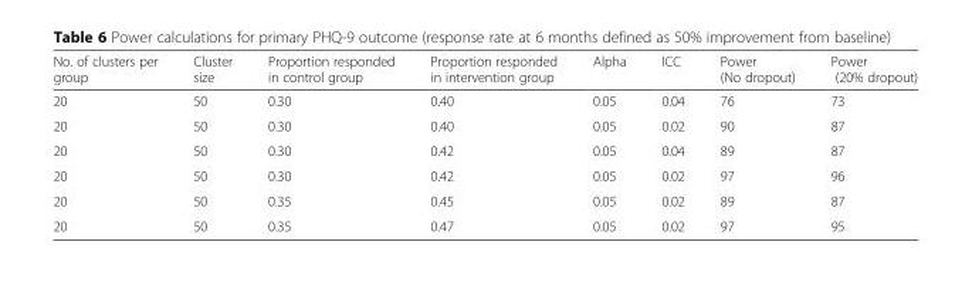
<table><thead><tr><td>No. of clusters per group</td><td>Cluster size</td><td>Proportion responded in control group</td><td>Proportion responded in intervention group</td><td>Alpha</td><td>ICC</td><td>Power (No dropout)</td><td>Power (20% dropout)</td></tr></thead><tbody><tr><td>20</td><td>50</td><td>0.30</td><td>0.40</td><td>0.05</td><td>0.04</td><td>76</td><td>73</td></tr><tr><td>20</td><td>50</td><td>0.30</td><td>0.40</td><td>0.05</td><td>0.02</td><td>90</td><td>87</td></tr><tr><td>20</td><td>50</td><td>0.30</td><td>0.42</td><td>0.05</td><td>0.04</td><td>89</td><td>87</td></tr><tr><td>20</td><td>50</td><td>0.30</td><td>0.42</td><td>0.05</td><td>0.02</td><td>97</td><td>96</td></tr><tr><td>20</td><td>50</td><td>0.35</td><td>0.45</td><td>0.05</td><td>0.02</td><td>89</td><td>87</td></tr><tr><td>20</td><td>50</td><td>0.35</td><td>0.47</td><td>0.05</td><td>0.02</td><td>97</td><td>95</td></tr></tbody></table>